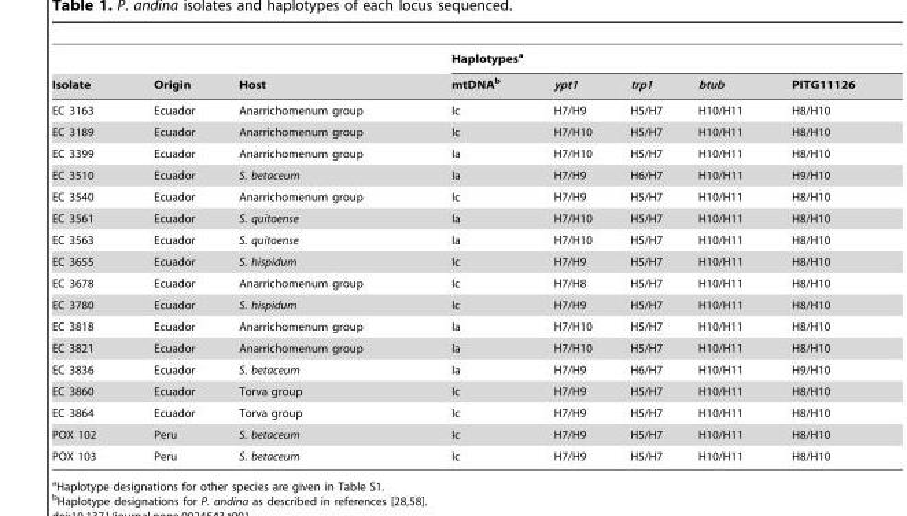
<table><thead><tr><td rowspan="2">Isolate</td><td rowspan="2">Origin</td><td rowspan="2">Host</td><td colspan="5">Haplotypes<sup>a</sup></td></tr><tr><td>mtDNA<sup>b</sup></td><td>ypt1</td><td>trp1</td><td>btub</td><td>PITG11126</td></tr></thead><tbody><tr><td>EC 3163</td><td>Ecuador</td><td>Anarrichomenum group</td><td>Ic</td><td>H7/H9</td><td>H5/H7</td><td>H10/H11</td><td>H8/H10</td></tr><tr><td>EC 3189</td><td>Ecuador</td><td>Anarrichomenum group</td><td>Ic</td><td>H7/H10</td><td>H5/H7</td><td>H10/H11</td><td>H8/H10</td></tr><tr><td>EC 3399</td><td>Ecuador</td><td>Anarrichomenum group</td><td>Ia</td><td>H7/H10</td><td>H5/H7</td><td>H10/H11</td><td>H8/H10</td></tr><tr><td>EC 3510</td><td>Ecuador</td><td>S. betaceum</td><td>Ia</td><td>H7/H9</td><td>H6/H7</td><td>H10/H11</td><td>H9/H10</td></tr><tr><td>EC 3540</td><td>Ecuador</td><td>Anarrichomenum group</td><td>Ic</td><td>H7/H9</td><td>H5/H7</td><td>H10/H11</td><td>H8/H10</td></tr><tr><td>EC 3561</td><td>Ecuador</td><td>S. quitoense</td><td>Ia</td><td>H7/H10</td><td>H5/H7</td><td>H10/H11</td><td>H8/H10</td></tr><tr><td>EC 3563</td><td>Ecuador</td><td>S. quitoense</td><td>Ia</td><td>H7/H10</td><td>H5/H7</td><td>H10/H11</td><td>H8/H10</td></tr><tr><td>EC 3655</td><td>Ecuador</td><td>S. hispidum</td><td>Ic</td><td>H7/H9</td><td>H5/H7</td><td>H10/H11</td><td>H8/H10</td></tr><tr><td>EC 3678</td><td>Ecuador</td><td>Anarrichomenum group</td><td>Ic</td><td>H7/H8</td><td>H5/H7</td><td>H10/H11</td><td>H8/H10</td></tr><tr><td>EC 3780</td><td>Ecuador</td><td>S. hispidum</td><td>Ic</td><td>H7/H9</td><td>H5/H7</td><td>H10/H11</td><td>H8/H10</td></tr><tr><td>EC 3818</td><td>Ecuador</td><td>Anarrichomenum group</td><td>Ia</td><td>H7/H10</td><td>H5/H7</td><td>H10/H11</td><td>H8/H10</td></tr><tr><td>EC 3821</td><td>Ecuador</td><td>Anarrichomenum group</td><td>Ia</td><td>H7/H10</td><td>H5/H7</td><td>H10/H11</td><td>H8/H10</td></tr><tr><td>EC 3836</td><td>Ecuador</td><td>S. betaceum</td><td>Ia</td><td>H7/H9</td><td>H6/H7</td><td>H10/H11</td><td>H9/H10</td></tr><tr><td>EC 3860</td><td>Ecuador</td><td>Torva group</td><td>Ic</td><td>H7/H9</td><td>H5/H7</td><td>H10/H11</td><td>H8/H10</td></tr><tr><td>EC 3864</td><td>Ecuador</td><td>Torva group</td><td>Ic</td><td>H7/H9</td><td>H5/H7</td><td>H10/H11</td><td>H8/H10</td></tr><tr><td>POX 102</td><td>Peru</td><td>S. betaceum</td><td>Ic</td><td>H7/H9</td><td>H5/H7</td><td>H10/H11</td><td>H8/H10</td></tr><tr><td>POX 103</td><td>Peru</td><td>S. betaceum</td><td>Ic</td><td>H7/H9</td><td>H5/H7</td><td>H10/H11</td><td>H8/H10</td></tr></tbody></table>